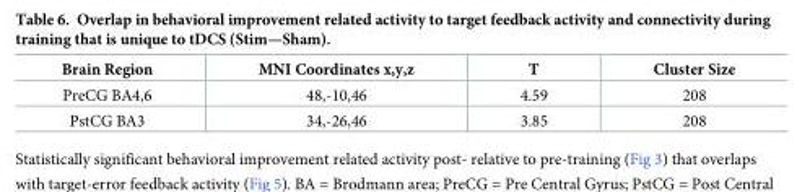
<table><thead><tr><td>Brain Region</td><td>MNI Coordinates x,y,z</td><td>T</td><td>Cluster Size</td></tr></thead><tbody><tr><td>PreCG BA4,6</td><td>48,-10,46</td><td>4.59</td><td>208</td></tr><tr><td>PstCG BA3</td><td>34,-26,46</td><td>3.85</td><td>208</td></tr></tbody></table>